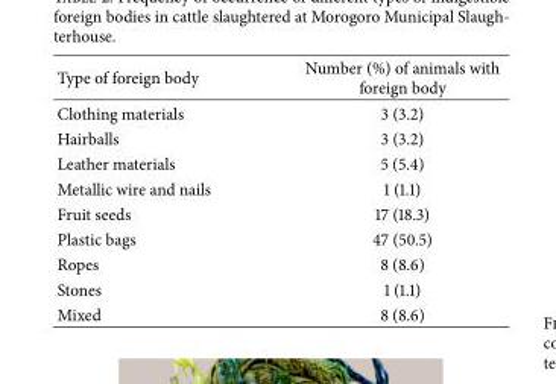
<table><thead><tr><td>Type of foreign body</td><td>Number (%) of animals with foreign body</td></tr></thead><tbody><tr><td>Clothing materials</td><td>3 (3.2)</td></tr><tr><td>Hairballs</td><td>3 (3.2)</td></tr><tr><td>Leather materials</td><td>5 (5.4)</td></tr><tr><td>Metallic wire and nails</td><td>1 (1.1)</td></tr><tr><td>Fruit seeds</td><td>17 (18.3)</td></tr><tr><td>Plastic bags</td><td>47 (50.5)</td></tr><tr><td>Ropes</td><td>8 (8.6)</td></tr><tr><td>Stones</td><td>1 (1.1)</td></tr><tr><td>Mixed</td><td>8 (8.6)</td></tr></tbody></table>